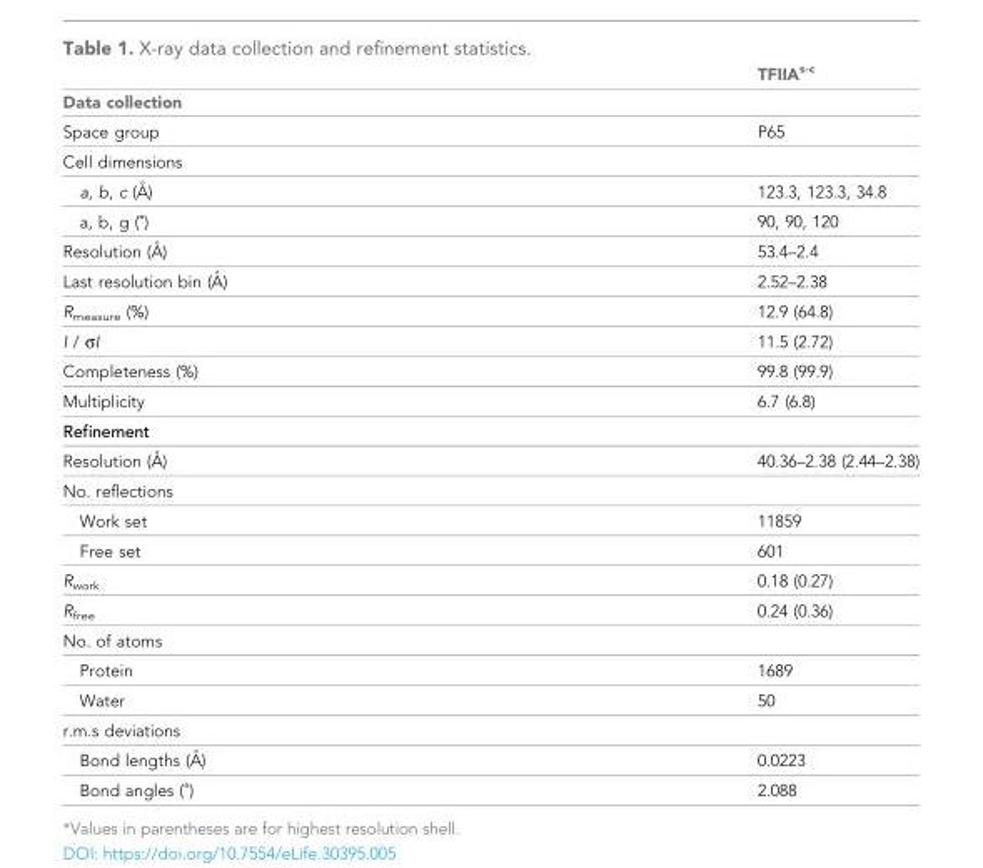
<table><thead><tr><td rowspan="2">Data collection</td><td rowspan="2">TFIIA<sup>s-c</sup></td></tr><tr></tr></thead><tbody><tr><td>Space group</td><td>P65</td></tr><tr><td colspan="2">Cell dimensions</td></tr><tr><td>a, b, c (A˚ )</td><td>123.3, 123.3, 34.8</td></tr><tr><td>a, b, g (˚)</td><td>90, 90, 120</td></tr><tr><td>Resolution (A˚ )</td><td>53.4–2.4</td></tr><tr><td>Last resolution bin (A˚ )</td><td>2.52–2.38</td></tr><tr><td>R<sub>measure</sub> (%)</td><td>12.9 (64.8)</td></tr><tr><td>I / σI</td><td>11.5 (2.72)</td></tr><tr><td>Completeness (%)</td><td>99.8 (99.9)</td></tr><tr><td>Multiplicity</td><td>6.7 (6.8)</td></tr><tr><td colspan="2">Refinement</td></tr><tr><td>Resolution (A˚ )</td><td>40.36–2.38 (2.44–2.38)</td></tr><tr><td colspan="2">No. reflections</td></tr><tr><td>Work set</td><td>11859</td></tr><tr><td>Free set</td><td>601</td></tr><tr><td>R<sub>work</sub></td><td>0.18 (0.27)</td></tr><tr><td>R<sub>free</sub></td><td>0.24 (0.36)</td></tr><tr><td colspan="2">No. of atoms</td></tr><tr><td>Protein</td><td>1689</td></tr><tr><td>Water</td><td>50</td></tr><tr><td colspan="2">r.m.s deviations</td></tr><tr><td>Bond lengths (A˚ )</td><td>0.0223</td></tr><tr><td>Bond angles (˚)</td><td>2.088</td></tr></tbody></table>